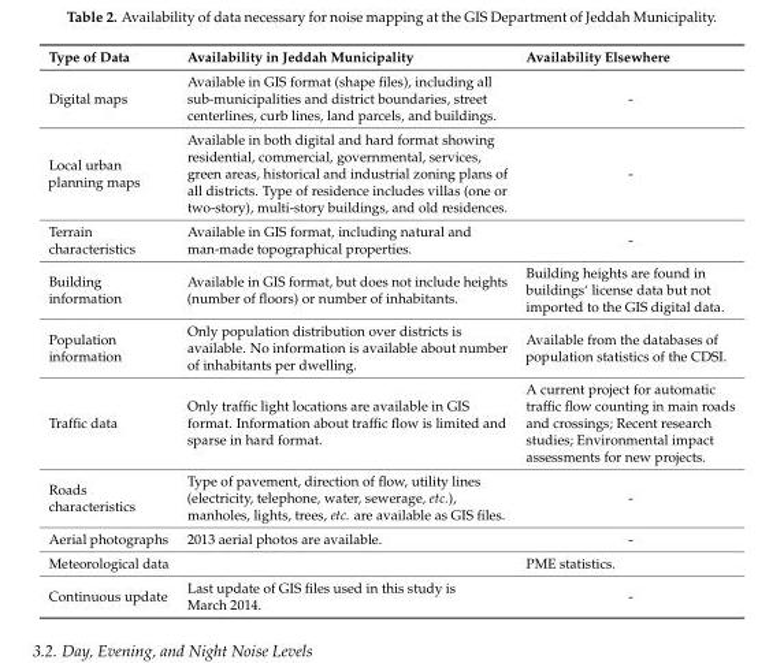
<table><thead><tr><td>Type of Data</td><td>Availability in Jeddah Municipality</td><td>Availability Elsewhere</td></tr></thead><tbody><tr><td>Digital maps</td><td>Available in GIS format (shape files), including all sub-municipalities and district boundaries, street centerlines, curb lines, land parcels, and buildings.</td><td>-</td></tr><tr><td>Local urban planning maps</td><td>Available in both digital and hard format showing residential, commercial, governmental, services, green areas, historical and industrial zoning plans of all districts. Type of residence includes villas (one or two-story), multi-story buildings, and old residences.</td><td>-</td></tr><tr><td>Terrain characteristics</td><td>Available in GIS format, including natural and man-made topographical properties.</td><td>-</td></tr><tr><td>Building information</td><td>Available in GIS format, but does not include heights (number of floors) or number of inhabitants.</td><td>Building heights are found in buildings‘ license data but not imported to the GIS digital data.</td></tr><tr><td>Population information</td><td>Only population distribution over districts is available. No information is available about number of inhabitants per dwelling.</td><td>Available from the databases of population statistics of the CDSI.</td></tr><tr><td>Traffic data</td><td>Only traffic light locations are available in GIS format. Information about traffic flow is limited and sparse in hard format.</td><td>A current project for automatic traffic flow counting in main roads and crossings; Recent research studies; Environmental impact assessments for new projects.</td></tr><tr><td>Roads characteristics</td><td>Type of pavement, direction of flow, utility lines (electricity, telephone, water, sewerage, etc.), manholes, lights, trees, etc. are available as GIS files.</td><td>-</td></tr><tr><td>Aerial photographs</td><td>2013 aerial photos are available.</td><td>-</td></tr><tr><td>Meteorological data</td><td></td><td>PME statistics.</td></tr><tr><td>Continuous update</td><td>Last update of GIS files used in this study is March 2014.</td><td>-</td></tr></tbody></table>